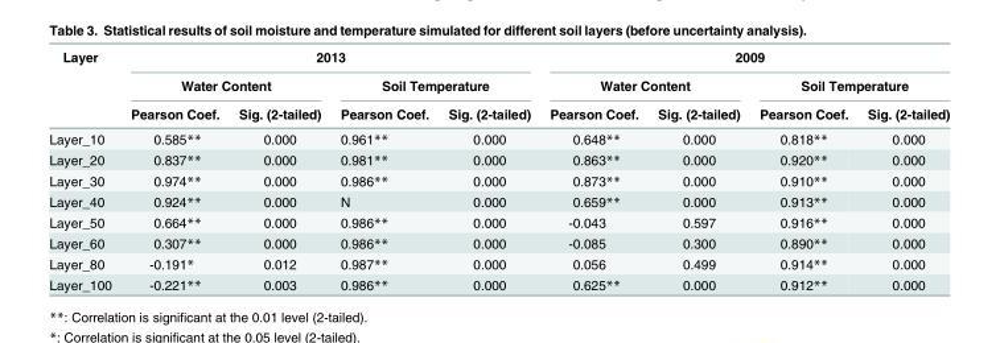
<table><thead><tr><td rowspan="3">Layer</td><td colspan="4">2013</td><td colspan="4">2009</td></tr><tr><td colspan="2">Water Content</td><td colspan="2">Soil Temperature</td><td colspan="2">Water Content</td><td colspan="2">Soil Temperature</td></tr><tr><td>Pearson Coef.</td><td>Sig. (2-tailed)</td><td>Pearson Coef.</td><td>Sig. (2-tailed)</td><td>Pearson Coef.</td><td>Sig. (2-tailed)</td><td>Pearson Coef.</td><td>Sig. (2-tailed)</td></tr></thead><tbody><tr><td>Layer_10</td><td>0.585**</td><td>0.000</td><td>0.961**</td><td>0.000</td><td>0.648**</td><td>0.000</td><td>0.818**</td><td>0.000</td></tr><tr><td>Layer_20</td><td>0.837**</td><td>0.000</td><td>0.981**</td><td>0.000</td><td>0.863**</td><td>0.000</td><td>0.920**</td><td>0.000</td></tr><tr><td>Layer_30</td><td>0.974**</td><td>0.000</td><td>0.986**</td><td>0.000</td><td>0.873**</td><td>0.000</td><td>0.910**</td><td>0.000</td></tr><tr><td>Layer_40</td><td>0.924**</td><td>0.000</td><td>N</td><td>0.000</td><td>0.659**</td><td>0.000</td><td>0.913**</td><td>0.000</td></tr><tr><td>Layer_50</td><td>0.664**</td><td>0.000</td><td>0.986**</td><td>0.000</td><td>-0.043</td><td>0.597</td><td>0.916**</td><td>0.000</td></tr><tr><td>Layer_60</td><td>0.307**</td><td>0.000</td><td>0.986**</td><td>0.000</td><td>-0.085</td><td>0.300</td><td>0.890**</td><td>0.000</td></tr><tr><td>Layer_80</td><td>-0.191*</td><td>0.012</td><td>0.987**</td><td>0.000</td><td>0.056</td><td>0.499</td><td>0.914**</td><td>0.000</td></tr><tr><td>Layer_100</td><td>-0.221**</td><td>0.003</td><td>0.986**</td><td>0.000</td><td>0.625**</td><td>0.000</td><td>0.912**</td><td>0.000</td></tr></tbody></table>